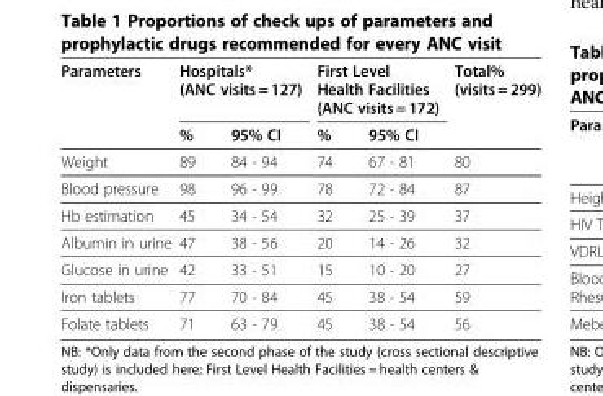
<table><thead><tr><td rowspan="2">Parameters</td><td colspan="2">Hospitals* (ANC visits = 127)</td><td colspan="2">First Level Health Facilities (ANC visits = 172)</td><td rowspan="2">Total% (visits = 299)</td></tr><tr><td>%</td><td>95% CI</td><td>%</td><td>95% CI</td></tr></thead><tbody><tr><td>Weight</td><td>89</td><td>84 - 94</td><td>74</td><td>67 - 81</td><td>80</td></tr><tr><td>Blood pressure</td><td>98</td><td>96 - 99</td><td>78</td><td>72 - 84</td><td>87</td></tr><tr><td>Hb estimation</td><td>45</td><td>34 - 54</td><td>32</td><td>25 - 39</td><td>37</td></tr><tr><td>Albumin in urine</td><td>47</td><td>38 - 56</td><td>20</td><td>14 - 26</td><td>32</td></tr><tr><td>Glucose in urine</td><td>42</td><td>33 - 51</td><td>15</td><td>10 - 20</td><td>27</td></tr><tr><td>Iron tablets</td><td>77</td><td>70 - 84</td><td>45</td><td>38 - 54</td><td>59</td></tr><tr><td>Folate tablets</td><td>71</td><td>63 - 79</td><td>45</td><td>38 - 54</td><td>56</td></tr></tbody></table>